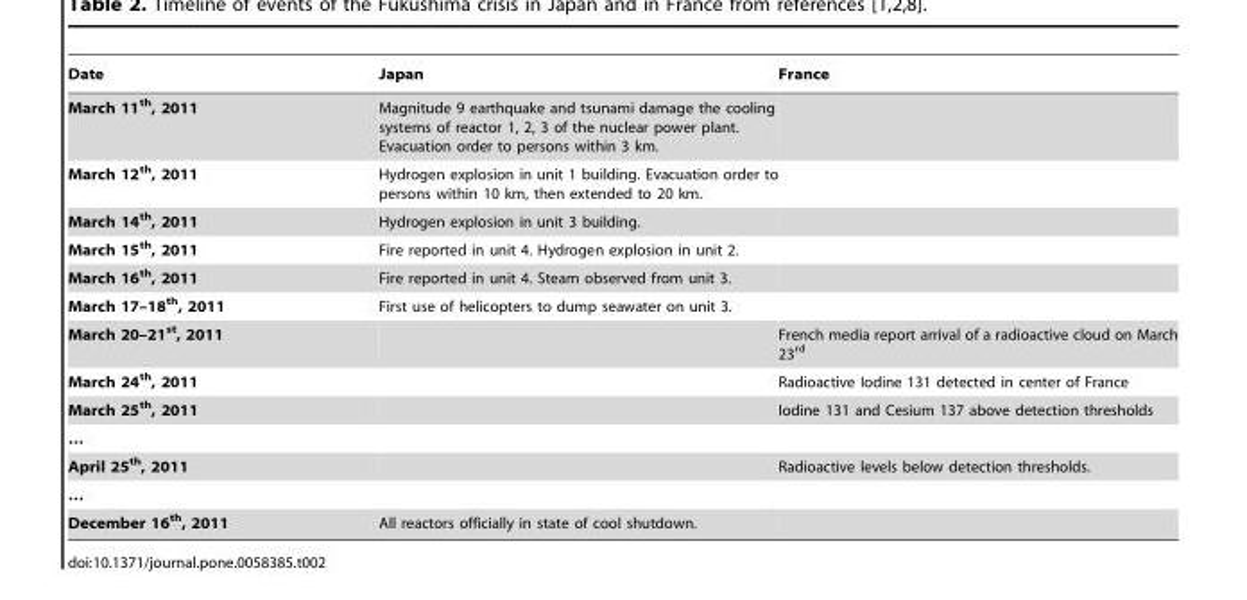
<table><thead><tr><td>Date</td><td>Japan</td><td>France</td></tr></thead><tbody><tr><td>March 11<sup>th</sup>, 2011</td><td>Magnitude 9 earthquake and tsunami damage the cooling systems of reactor 1, 2, 3 of the nuclear power plant. Evacuation order to persons within 3 km.</td><td></td></tr><tr><td>March 12<sup>th</sup>, 2011</td><td>Hydrogen explosion in unit 1 building. Evacuation order to persons within 10 km, then extended to 20 km.</td><td></td></tr><tr><td>March 14<sup>th</sup>, 2011</td><td>Hydrogen explosion in unit 3 building.</td><td></td></tr><tr><td>March 15<sup>th</sup>, 2011</td><td>Fire reported in unit 4. Hydrogen explosion in unit 2.</td><td></td></tr><tr><td>March 16<sup>th</sup>, 2011</td><td>Fire reported in unit 4. Steam observed from unit 3.</td><td></td></tr><tr><td>March 17–18<sup>th</sup>, 2011</td><td>First use of helicopters to dump seawater on unit 3.</td><td></td></tr><tr><td>March 20–21<sup>st</sup>, 2011</td><td></td><td>French media report arrival of a radioactive cloud on March 23<sup>rd</sup></td></tr><tr><td>March 24<sup>th</sup>, 2011</td><td></td><td>Radioactive Iodine 131 detected in center of France</td></tr><tr><td>March 25<sup>th</sup>, 2011</td><td></td><td>Iodine 131 and Cesium 137 above detection thresholds</td></tr><tr><td colspan="3">…</td></tr><tr><td>April 25<sup>th</sup>, 2011</td><td></td><td>Radioactive levels below detection thresholds.</td></tr><tr><td colspan="3">…</td></tr><tr><td>December 16<sup>th</sup>, 2011</td><td>All reactors officially in state of cool shutdown.</td><td></td></tr></tbody></table>